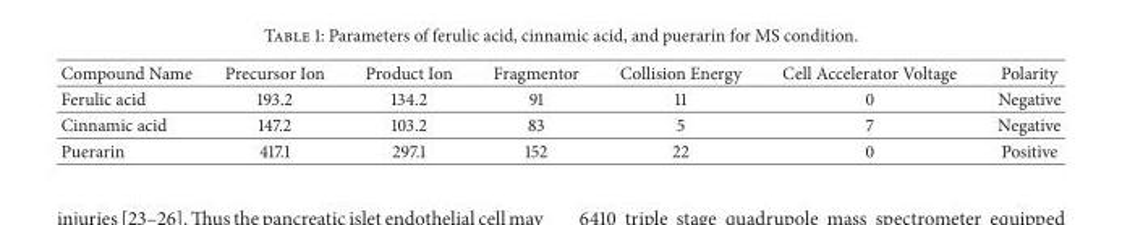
<table><thead><tr><td>Compound Name</td><td>Precursor Ion</td><td>Product Ion</td><td>Fragmentor</td><td>Collision Energy</td><td>Cell Accelerator Voltage</td><td>Polarity</td></tr></thead><tbody><tr><td>Ferulic acid</td><td>193.2</td><td>134.2</td><td>91</td><td>11</td><td>0</td><td>Negative</td></tr><tr><td>Cinnamic acid</td><td>147.2</td><td>103.2</td><td>83</td><td>5</td><td>7</td><td>Negative</td></tr><tr><td>Puerarin</td><td>417.1</td><td>297.1</td><td>152</td><td>22</td><td>0</td><td>Positive</td></tr></tbody></table>